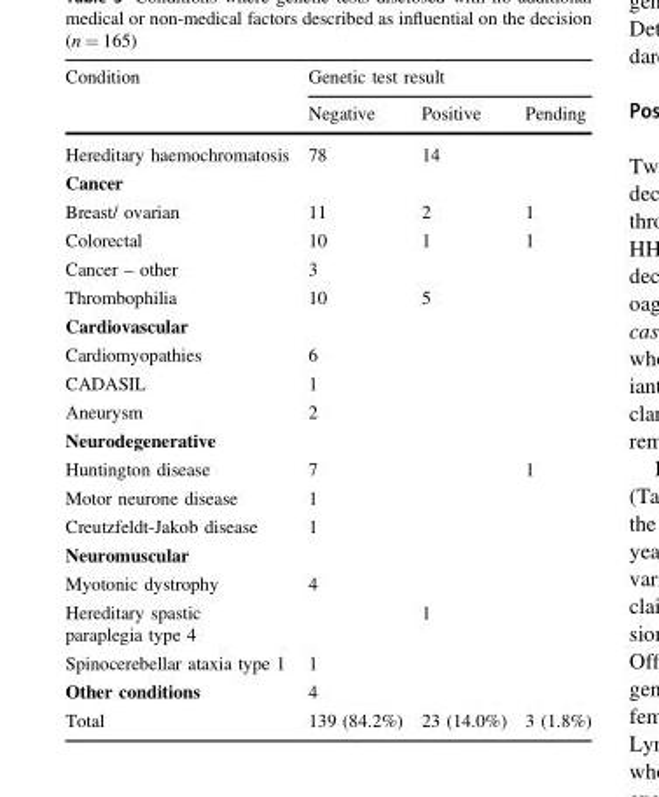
<table><thead><tr><td rowspan="2">Condition</td><td colspan="3">Genetic test result</td></tr><tr><td>Negative</td><td>Positive</td><td>Pending</td></tr></thead><tbody><tr><td>Hereditary haemochromatosis</td><td>78</td><td>14</td><td></td></tr><tr><td colspan="4">Cancer</td></tr><tr><td>Breast/ ovarian</td><td>11</td><td>2</td><td>1</td></tr><tr><td>Colorectal</td><td>10</td><td>1</td><td>1</td></tr><tr><td>Cancer – other</td><td>3</td><td></td><td></td></tr><tr><td>Thrombophilia</td><td>10</td><td>5</td><td></td></tr><tr><td colspan="4">Cardiovascular</td></tr><tr><td>Cardiomyopathies</td><td>6</td><td></td><td></td></tr><tr><td>CADASIL</td><td>1</td><td></td><td></td></tr><tr><td>Aneurysm</td><td>2</td><td></td><td></td></tr><tr><td colspan="4">Neurodegenerative</td></tr><tr><td>Huntington disease</td><td>7</td><td></td><td>1</td></tr><tr><td>Motor neurone disease</td><td>1</td><td></td><td></td></tr><tr><td>Creutzfeldt-Jakob disease</td><td>1</td><td></td><td></td></tr><tr><td colspan="4">Neuromuscular</td></tr><tr><td>Myotonic dystrophy</td><td>4</td><td></td><td></td></tr><tr><td>Hereditary spastic paraplegia type 4</td><td></td><td>1</td><td></td></tr><tr><td>Spinocerebellar ataxia type 1</td><td>1</td><td></td><td></td></tr><tr><td>Other conditions</td><td>4</td><td></td><td></td></tr><tr><td>Total</td><td>139 (84.2%)</td><td>23 (14.0%)</td><td>3 (1.8%)</td></tr></tbody></table>